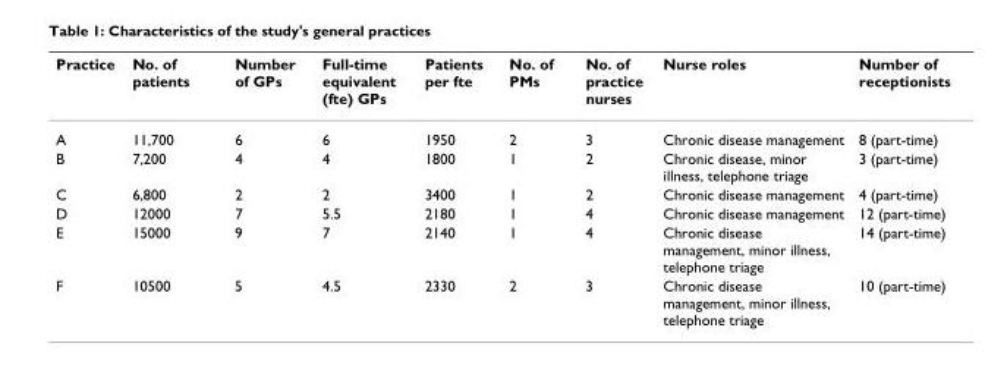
<table><thead><tr><td>Practice</td><td>No. of patients</td><td>Number of GPs</td><td>Full-time equivalent (fte) GPs</td><td>Patients per fte</td><td>No. of PMs</td><td>No. of practice nurses</td><td>Nurse roles</td><td>Number of receptionists</td></tr></thead><tbody><tr><td>A</td><td>11,700</td><td>6</td><td>6</td><td>1950</td><td>2</td><td>3</td><td>Chronic disease management</td><td>8 (part-time)</td></tr><tr><td>B</td><td>7,200</td><td>4</td><td>4</td><td>1800</td><td>1</td><td>2</td><td>Chronic disease, minor illness, telephone triage</td><td>3 (part-time)</td></tr><tr><td>C</td><td>6,800</td><td>2</td><td>2</td><td>3400</td><td>1</td><td>2</td><td>Chronic disease management</td><td>4 (part-time)</td></tr><tr><td>D</td><td>12000</td><td>7</td><td>5.5</td><td>2180</td><td>1</td><td>4</td><td>Chronic disease management</td><td>12 (part-time)</td></tr><tr><td>E</td><td>15000</td><td>9</td><td>7</td><td>2140</td><td>1</td><td>4</td><td>Chronic disease management, minor illness, telephone triage</td><td>14 (part-time)</td></tr><tr><td>F</td><td>10500</td><td>5</td><td>4.5</td><td>2330</td><td>2</td><td>3</td><td>Chronic disease management, minor illness, telephone triage</td><td>10 (part-time)</td></tr></tbody></table>